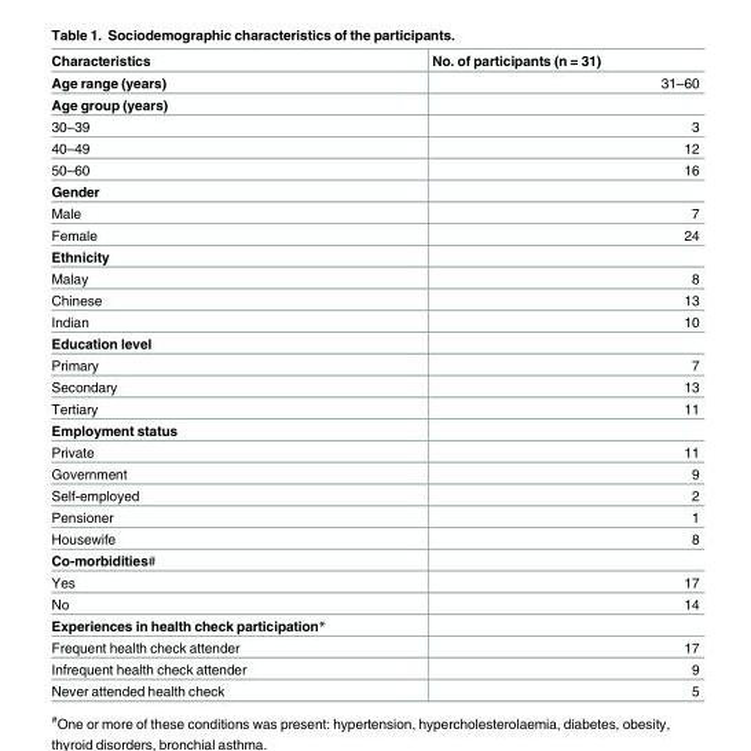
<table><thead><tr><td>Characteristics</td><td>No. of participants (n = 31)</td></tr></thead><tbody><tr><td>Age range (years)</td><td>31–60</td></tr><tr><td colspan="2">Age group (years)</td></tr><tr><td>30–39</td><td>3</td></tr><tr><td>40–49</td><td>12</td></tr><tr><td>50–60</td><td>16</td></tr><tr><td colspan="2">Gender</td></tr><tr><td>Male</td><td>7</td></tr><tr><td>Female</td><td>24</td></tr><tr><td colspan="2">Ethnicity</td></tr><tr><td>Malay</td><td>8</td></tr><tr><td>Chinese</td><td>13</td></tr><tr><td>Indian</td><td>10</td></tr><tr><td colspan="2">Education level</td></tr><tr><td>Primary</td><td>7</td></tr><tr><td>Secondary</td><td>13</td></tr><tr><td>Tertiary</td><td>11</td></tr><tr><td colspan="2">Employment status</td></tr><tr><td>Private</td><td>11</td></tr><tr><td>Government</td><td>9</td></tr><tr><td>Self-employed</td><td>2</td></tr><tr><td>Pensioner</td><td>1</td></tr><tr><td>Housewife</td><td>8</td></tr><tr><td colspan="2">Co-morbidities#</td></tr><tr><td>Yes</td><td>17</td></tr><tr><td>No</td><td>14</td></tr><tr><td colspan="2">Experiences in health check participation*</td></tr><tr><td>Frequent health check attender</td><td>17</td></tr><tr><td>Infrequent health check attender</td><td>9</td></tr><tr><td>Never attended health check</td><td>5</td></tr></tbody></table>